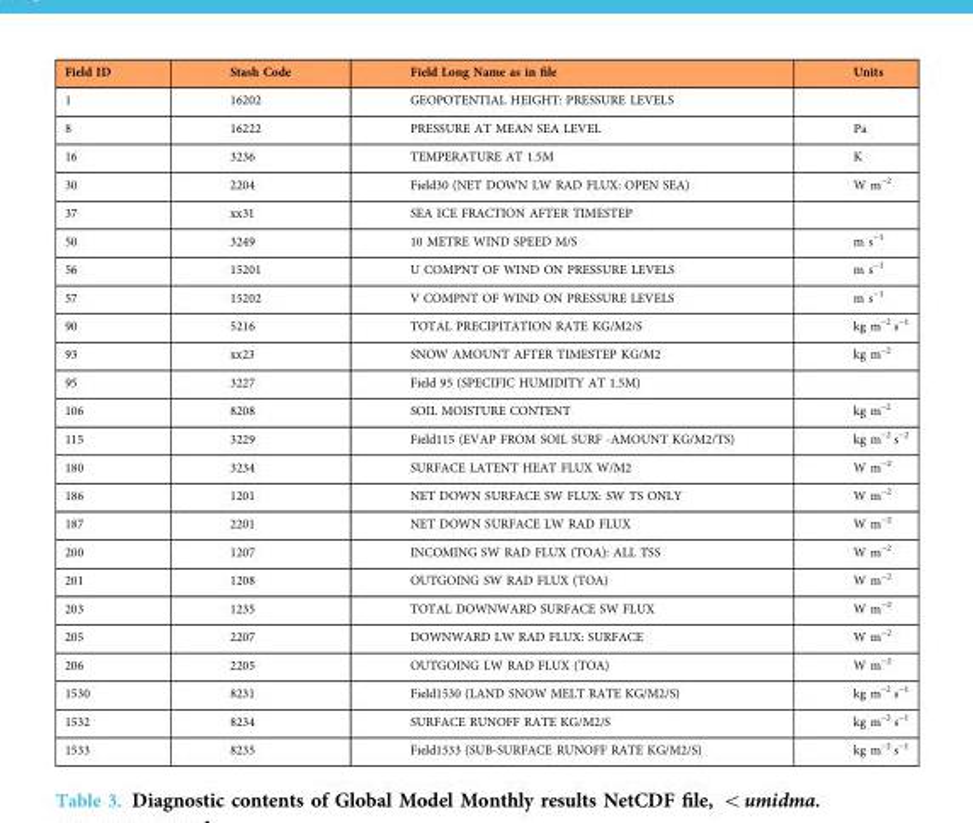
<table><thead><tr><td>Field ID</td><td>Stash Code</td><td>Field Long Name as in file</td><td>Units</td></tr></thead><tbody><tr><td>1</td><td>16202</td><td>GEOPOTENTIAL HEIGHT: PRESSURE LEVELS</td><td></td></tr><tr><td>8</td><td>16222</td><td>PRESSURE AT MEAN SEA LEVEL</td><td>Pa</td></tr><tr><td>16</td><td>3236</td><td>TEMPERATURE AT 1.5M</td><td>K</td></tr><tr><td>30</td><td>2204</td><td>Field30 (NET DOWN LW RAD FLUX: OPEN SEA)</td><td>W m<sup>−2</sup></td></tr><tr><td>37</td><td>xx31</td><td>SEA ICE FRACTION AFTER TIMESTEP</td><td></td></tr><tr><td>50</td><td>3249</td><td>10 METRE WIND SPEED M/S</td><td>m s<sup>−1</sup></td></tr><tr><td>56</td><td>15201</td><td>U COMPNT OF WIND ON PRESSURE LEVELS</td><td>m s<sup>−1</sup></td></tr><tr><td>57</td><td>15202</td><td>V COMPNT OF WIND ON PRESSURE LEVELS</td><td>m s<sup>−1</sup></td></tr><tr><td>90</td><td>5216</td><td>TOTAL PRECIPITATION RATE KG/M2/S</td><td>kg m<sup>−2</sup> s<sup>−1</sup></td></tr><tr><td>93</td><td>xx23</td><td>SNOW AMOUNT AFTER TIMESTEP KG/M2</td><td>kg m<sup>−2</sup></td></tr><tr><td>95</td><td>3227</td><td>Field 95 (SPECIFIC HUMIDITY AT 1.5M)</td><td></td></tr><tr><td>106</td><td>8208</td><td>SOIL MOISTURE CONTENT</td><td>kg m<sup>−2</sup></td></tr><tr><td>115</td><td>3229</td><td>Field115 (EVAP FROM SOIL SURF -AMOUNT KG/M2/TS)</td><td>kg m<sup>−2</sup> s<sup>−2</sup></td></tr><tr><td>180</td><td>3234</td><td>SURFACE LATENT HEAT FLUX W/M2</td><td>W m<sup>−2</sup></td></tr><tr><td>186</td><td>1201</td><td>NET DOWN SURFACE SW FLUX: SW TS ONLY</td><td>W m<sup>−2</sup></td></tr><tr><td>187</td><td>2201</td><td>NET DOWN SURFACE LW RAD FLUX</td><td>W m<sup>−2</sup></td></tr><tr><td>200</td><td>1207</td><td>INCOMING SW RAD FLUX (TOA): ALL TSS</td><td>W m<sup>−2</sup></td></tr><tr><td>201</td><td>1208</td><td>OUTGOING SW RAD FLUX (TOA)</td><td>W m<sup>−2</sup></td></tr><tr><td>203</td><td>1235</td><td>TOTAL DOWNWARD SURFACE SW FLUX</td><td>W m<sup>−2</sup></td></tr><tr><td>205</td><td>2207</td><td>DOWNWARD LW RAD FLUX: SURFACE</td><td>W m<sup>−2</sup></td></tr><tr><td>206</td><td>2205</td><td>OUTGOING LW RAD FLUX (TOA)</td><td>W m<sup>−2</sup></td></tr><tr><td>1530</td><td>8231</td><td>Field1530 (LAND SNOW MELT RATE KG/M2/S)</td><td>kg m<sup>−2</sup> s<sup>−1</sup></td></tr><tr><td>1532</td><td>8234</td><td>SURFACE RUNOFF RATE KG/M2/S</td><td>kg m<sup>−2</sup> s<sup>−1</sup></td></tr><tr><td>1533</td><td>8235</td><td>Field1533 (SUB-SURFACE RUNOFF RATE KG/M2/S)</td><td>kg m<sup>−2</sup> s<sup>−1</sup></td></tr></tbody></table>